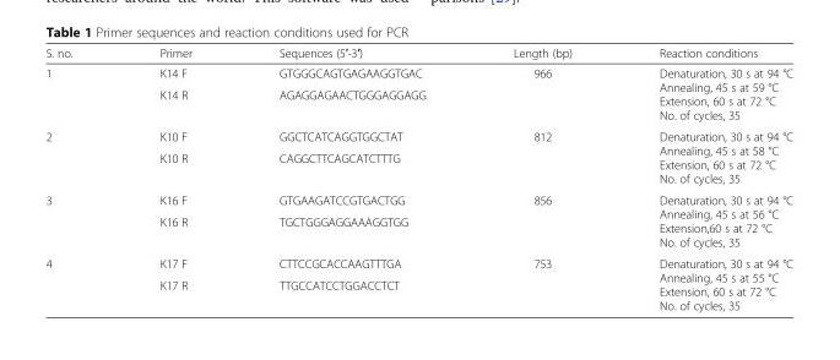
<table><thead><tr><td>S. no.</td><td>Primer</td><td>Sequences (5′-3′)</td><td>Length (bp)</td><td>Reaction conditions</td></tr></thead><tbody><tr><td rowspan="2">1</td><td>K14 F</td><td>GTGGGCAGTGAGAAGGTGAC</td><td rowspan="2">966</td><td rowspan="2">Denaturation, 30 s at 94 °C Annealing, 45 s at 59 °C Extension, 60 s at 72 °C No. of cycles, 35</td></tr><tr><td>K14 R</td><td>AGAGGAGAACTGGGAGGAGG</td></tr><tr><td rowspan="2">2</td><td>K10 F</td><td>GGCTCATCAGGTGGCTAT</td><td rowspan="2">812</td><td rowspan="2">Denaturation, 30 s at 94 °C Annealing, 45 s at 58 °C Extension, 60 s at 72 °C No. of cycles, 35</td></tr><tr><td>K10 R</td><td>CAGGCTTCAGCATCTTTG</td></tr><tr><td rowspan="2">3</td><td>K16 F</td><td>GTGAAGATCCGTGACTGG</td><td rowspan="2">856</td><td rowspan="2">Denaturation, 30 s at 94 °C Annealing, 45 s at 56 °C Extension,60 s at 72 °C No. of cycles, 35</td></tr><tr><td>K16 R</td><td>TGCTGGGAGGAAAGGTGG</td></tr><tr><td rowspan="2">4</td><td>K17 F</td><td>CTTCCGCACCAAGTTTGA</td><td rowspan="2">753</td><td rowspan="2">Denaturation, 30 s at 94 °C Annealing, 45 s at 55 °C Extension, 60 s at 72 °C No. of cycles, 35</td></tr><tr><td>K17 R</td><td>TTGCCATCCTGGACCTCT</td></tr></tbody></table>